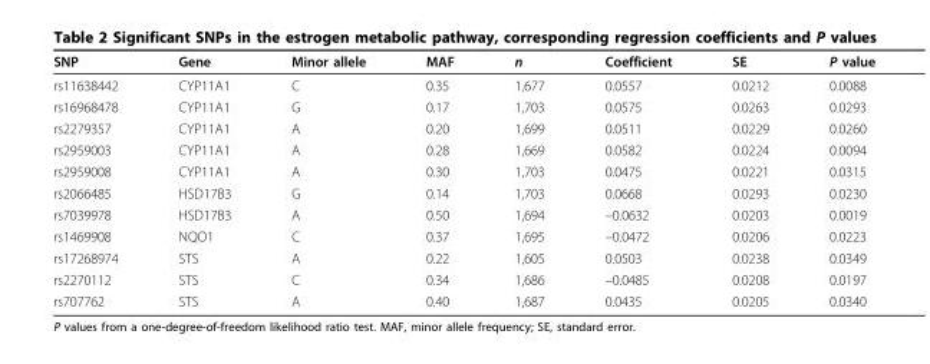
<table><thead><tr><td>SNP</td><td>Gene</td><td>Minor allele</td><td>MAF</td><td>n</td><td>Coefficient</td><td>SE</td><td>P value</td></tr></thead><tbody><tr><td>rs11638442</td><td>CYP11A1</td><td>C</td><td>0.35</td><td>1,677</td><td>0.0557</td><td>0.0212</td><td>0.0088</td></tr><tr><td>rs16968478</td><td>CYP11A1</td><td>G</td><td>0.17</td><td>1,703</td><td>0.0575</td><td>0.0263</td><td>0.0293</td></tr><tr><td>rs2279357</td><td>CYP11A1</td><td>A</td><td>0.20</td><td>1,699</td><td>0.0511</td><td>0.0229</td><td>0.0260</td></tr><tr><td>rs2959003</td><td>CYP11A1</td><td>A</td><td>0.28</td><td>1,669</td><td>0.0582</td><td>0.0224</td><td>0.0094</td></tr><tr><td>rs2959008</td><td>CYP11A1</td><td>A</td><td>0.30</td><td>1,703</td><td>0.0475</td><td>0.0221</td><td>0.0315</td></tr><tr><td>rs2066485</td><td>HSD17B3</td><td>G</td><td>0.14</td><td>1,703</td><td>0.0668</td><td>0.0293</td><td>0.0230</td></tr><tr><td>rs7039978</td><td>HSD17B3</td><td>A</td><td>0.50</td><td>1,694</td><td>–0.0632</td><td>0.0203</td><td>0.0019</td></tr><tr><td>rs1469908</td><td>NQO1</td><td>C</td><td>0.37</td><td>1,695</td><td>–0.0472</td><td>0.0206</td><td>0.0223</td></tr><tr><td>rs17268974</td><td>STS</td><td>A</td><td>0.22</td><td>1,605</td><td>0.0503</td><td>0.0238</td><td>0.0349</td></tr><tr><td>rs2270112</td><td>STS</td><td>C</td><td>0.34</td><td>1,686</td><td>–0.0485</td><td>0.0208</td><td>0.0197</td></tr><tr><td>rs707762</td><td>STS</td><td>A</td><td>0.40</td><td>1,687</td><td>0.0435</td><td>0.0205</td><td>0.0340</td></tr></tbody></table>